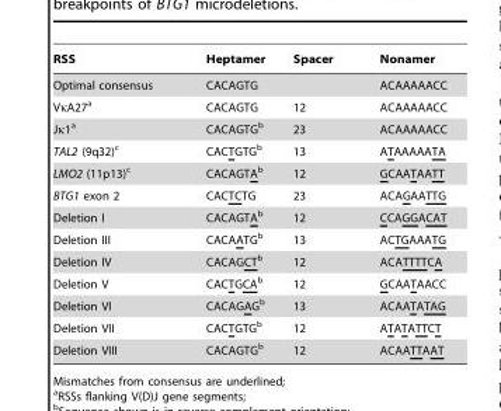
<table><thead><tr><td>RSS</td><td>Heptamer</td><td>Spacer</td><td>Nonamer</td></tr></thead><tbody><tr><td>Optimal consensus</td><td>CACAGTG</td><td></td><td>ACAAAAACC</td></tr><tr><td>VκA27<sup>a</sup></td><td>CACAGTG</td><td>12</td><td>ACAAAAACC</td></tr><tr><td>Jκ1<sup>a</sup></td><td>CACAGTGb</td><td>23</td><td>ACAAAAACC</td></tr><tr><td>TAL2 (9q32)<sup>c</sup></td><td>CACTGTGb</td><td>13</td><td>ATAAAAATA</td></tr><tr><td>LMO2 (11p13)<sup>c</sup></td><td>CACAGTAb</td><td>12</td><td>GCAATAATT</td></tr><tr><td>BTG1 exon 2</td><td>CACTCTG</td><td>23</td><td>ACAGAATTG</td></tr><tr><td>Deletion I</td><td>CACAGTAb</td><td>12</td><td>CCAGGACAT</td></tr><tr><td>Deletion III</td><td>CACAATGb</td><td>13</td><td>ACTGAAATG</td></tr><tr><td>Deletion IV</td><td>CACAGCTb</td><td>12</td><td>ACATTTTCA</td></tr><tr><td>Deletion V</td><td>CACTGCAb</td><td>12</td><td>GCAATAACC</td></tr><tr><td>Deletion VI</td><td>CACAGAGb</td><td>13</td><td>ACAATATAG</td></tr><tr><td>Deletion VII</td><td>CACTGTGb</td><td>12</td><td>ATATATTCT</td></tr><tr><td>Deletion VIII</td><td>CACAGTGb</td><td>12</td><td>ACAATTAAT</td></tr></tbody></table>